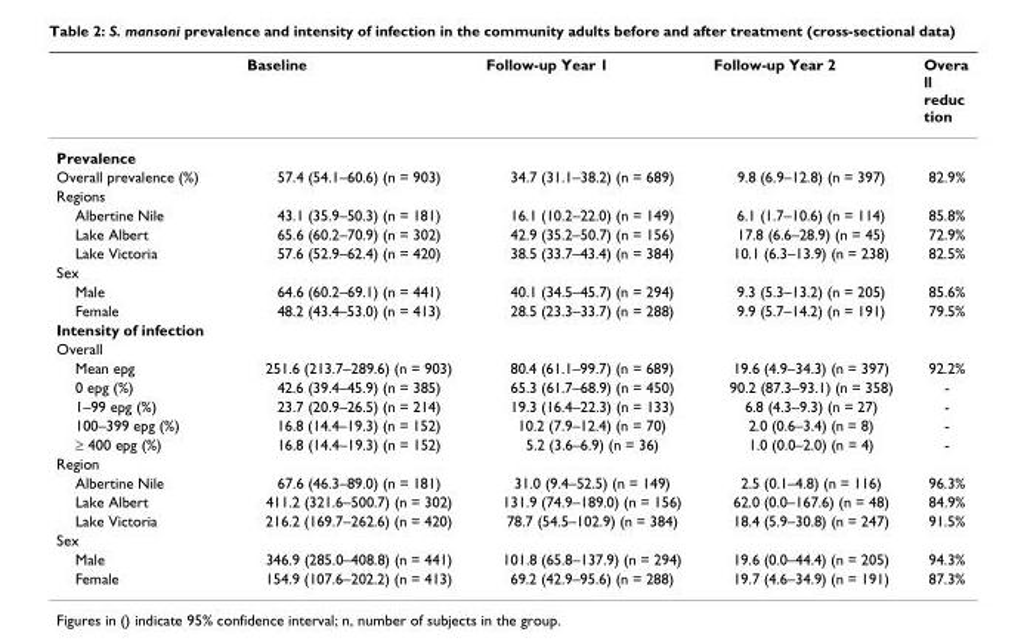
<table><thead><tr><td></td><td>Baseline</td><td>Follow-up Year 1</td><td>Follow-up Year 2</td><td>Overa ll reduc tion</td></tr></thead><tbody><tr><td colspan="5">Prevalence</td></tr><tr><td>Overall prevalence (%)</td><td>57.4 (54.1–60.6) (n = 903)</td><td>34.7 (31.1–38.2) (n = 689)</td><td>9.8 (6.9–12.8) (n = 397)</td><td>82.9%</td></tr><tr><td colspan="5">Regions</td></tr><tr><td>Albertine Nile</td><td>43.1 (35.9–50.3) (n = 181)</td><td>16.1 (10.2–22.0) (n = 149)</td><td>6.1 (1.7–10.6) (n = 114)</td><td>85.8%</td></tr><tr><td>Lake Albert</td><td>65.6 (60.2–70.9) (n = 302)</td><td>42.9 (35.2–50.7) (n = 156)</td><td>17.8 (6.6–28.9) (n = 45)</td><td>72.9%</td></tr><tr><td>Lake Victoria</td><td>57.6 (52.9–62.4) (n = 420)</td><td>38.5 (33.7–43.4) (n = 384)</td><td>10.1 (6.3–13.9) (n = 238)</td><td>82.5%</td></tr><tr><td colspan="5">Sex</td></tr><tr><td>Male</td><td>64.6 (60.2–69.1) (n = 441)</td><td>40.1 (34.5–45.7) (n = 294)</td><td>9.3 (5.3–13.2) (n = 205)</td><td>85.6%</td></tr><tr><td>Female</td><td>48.2 (43.4–53.0) (n = 413)</td><td>28.5 (23.3–33.7) (n = 288)</td><td>9.9 (5.7–14.2) (n = 191)</td><td>79.5%</td></tr><tr><td colspan="5">Intensity of infection</td></tr><tr><td colspan="5">Overall</td></tr><tr><td>Mean epg</td><td>251.6 (213.7–289.6) (n = 903)</td><td>80.4 (61.1–99.7) (n = 689)</td><td>19.6 (4.9–34.3) (n = 397)</td><td>92.2%</td></tr><tr><td>0 epg (%)</td><td>42.6 (39.4–45.9) (n = 385)</td><td>65.3 (61.7–68.9) (n = 450)</td><td>90.2 (87.3–93.1) (n = 358)</td><td>-</td></tr><tr><td>1–99 epg (%)</td><td>23.7 (20.9–26.5) (n = 214)</td><td>19.3 (16.4–22.3) (n = 133)</td><td>6.8 (4.3–9.3) (n = 27)</td><td>-</td></tr><tr><td>100–399 epg (%)</td><td>16.8 (14.4–19.3) (n = 152)</td><td>10.2 (7.9–12.4) (n = 70)</td><td>2.0 (0.6–3.4) (n = 8)</td><td>-</td></tr><tr><td>≥ 400 epg (%)</td><td>16.8 (14.4–19.3) (n = 152)</td><td>5.2 (3.6–6.9) (n = 36)</td><td>1.0 (0.0–2.0) (n = 4)</td><td>-</td></tr><tr><td colspan="5">Region</td></tr><tr><td>Albertine Nile</td><td>67.6 (46.3–89.0) (n = 181)</td><td>31.0 (9.4–52.5) (n = 149)</td><td>2.5 (0.1–4.8) (n = 116)</td><td>96.3%</td></tr><tr><td>Lake Albert</td><td>411.2 (321.6–500.7) (n = 302)</td><td>131.9 (74.9–189.0) (n = 156)</td><td>62.0 (0.0–167.6) (n = 48)</td><td>84.9%</td></tr><tr><td>Lake Victoria</td><td>216.2 (169.7–262.6) (n = 420)</td><td>78.7 (54.5–102.9) (n = 384)</td><td>18.4 (5.9–30.8) (n = 247)</td><td>91.5%</td></tr><tr><td colspan="5">Sex</td></tr><tr><td>Male</td><td>346.9 (285.0–408.8) (n = 441)</td><td>101.8 (65.8–137.9) (n = 294)</td><td>19.6 (0.0–44.4) (n = 205)</td><td>94.3%</td></tr><tr><td>Female</td><td>154.9 (107.6–202.2) (n = 413)</td><td>69.2 (42.9–95.6) (n = 288)</td><td>19.7 (4.6–34.9) (n = 191)</td><td>87.3%</td></tr></tbody></table>